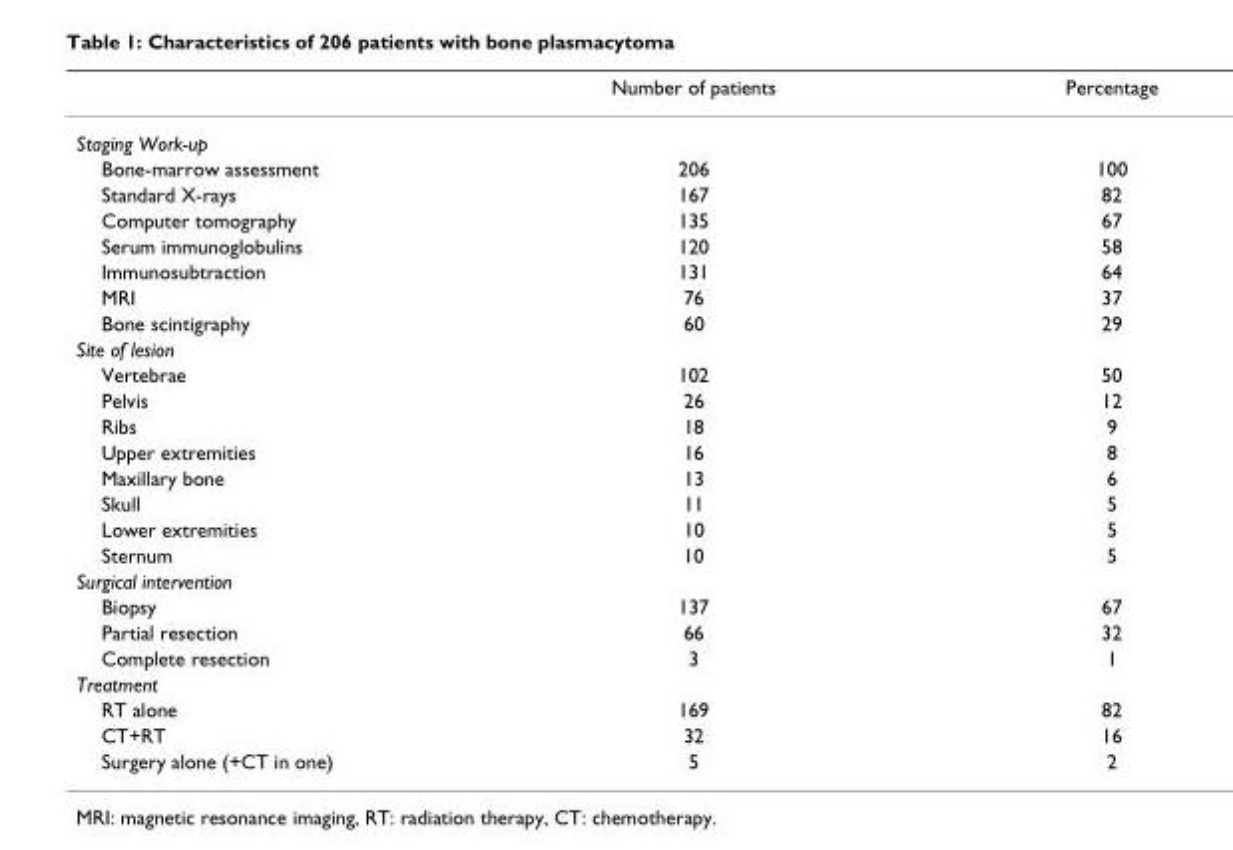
<table><thead><tr><td></td><td>Number of patients</td><td>Percentage</td></tr></thead><tbody><tr><td colspan="3">Staging Work-up</td></tr><tr><td>Bone-marrow assessment</td><td>206</td><td>100</td></tr><tr><td>Standard X-rays</td><td>167</td><td>82</td></tr><tr><td>Computer tomography</td><td>135</td><td>67</td></tr><tr><td>Serum immunoglobulins</td><td>120</td><td>58</td></tr><tr><td>Immunosubtraction</td><td>131</td><td>64</td></tr><tr><td>MRI</td><td>76</td><td>37</td></tr><tr><td>Bone scintigraphy</td><td>60</td><td>29</td></tr><tr><td colspan="3">Site of lesion</td></tr><tr><td>Vertebrae</td><td>102</td><td>50</td></tr><tr><td>Pelvis</td><td>26</td><td>12</td></tr><tr><td>Ribs</td><td>18</td><td>9</td></tr><tr><td>Upper extremities</td><td>16</td><td>8</td></tr><tr><td>Maxillary bone</td><td>13</td><td>6</td></tr><tr><td>Skull</td><td>11</td><td>5</td></tr><tr><td>Lower extremities</td><td>10</td><td>5</td></tr><tr><td>Sternum</td><td>10</td><td>5</td></tr><tr><td colspan="3">Surgical intervention</td></tr><tr><td>Biopsy</td><td>137</td><td>67</td></tr><tr><td>Partial resection</td><td>66</td><td>32</td></tr><tr><td>Complete resection</td><td>3</td><td>1</td></tr><tr><td colspan="3">Treatment</td></tr><tr><td>RT alone</td><td>169</td><td>82</td></tr><tr><td>CT+RT</td><td>32</td><td>16</td></tr><tr><td>Surgery alone (+CT in one)</td><td>5</td><td>2</td></tr></tbody></table>